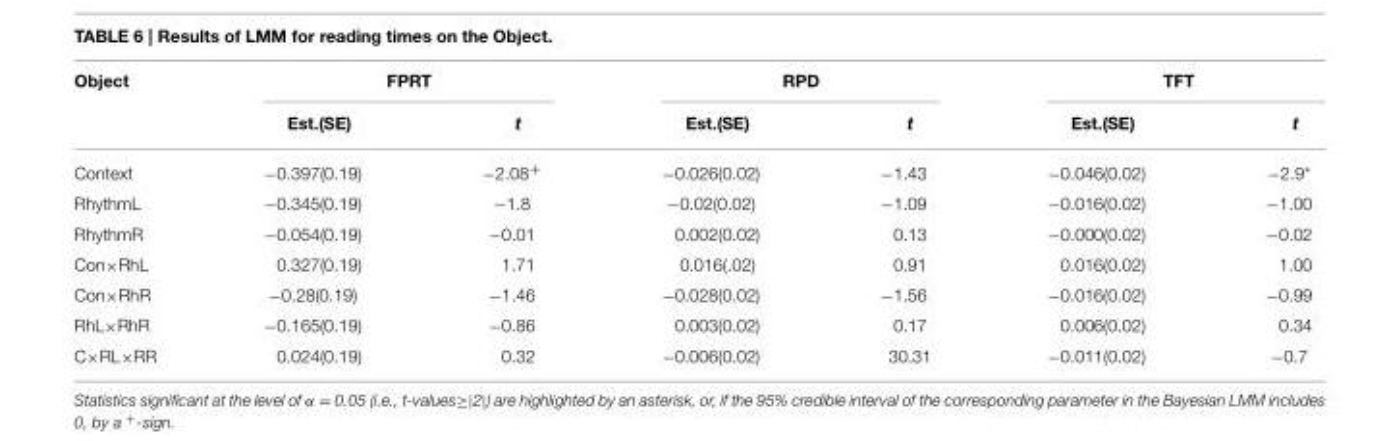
<table><thead><tr><td rowspan="2">Object</td><td colspan="2">FPRT</td><td colspan="2">RPD</td><td colspan="2">TFT</td></tr><tr><td>Est.(SE)</td><td>t</td><td>Est.(SE)</td><td>t</td><td>Est.(SE)</td><td>t</td></tr></thead><tbody><tr><td>Context</td><td>−0.397(0.19)</td><td>−2.08<sup>+</sup></td><td>−0.026(0.02)</td><td>−1.43</td><td>−0.046(0.02)</td><td>−2.9*</td></tr><tr><td>RhythmL</td><td>−0.345(0.19)</td><td>−1.8</td><td>−0.02(0.02)</td><td>−1.09</td><td>−0.016(0.02)</td><td>−1.00</td></tr><tr><td>RhythmR</td><td>−0.054(0.19)</td><td>−0.01</td><td>0.002(0.02)</td><td>0.13</td><td>−0.000(0.02)</td><td>−0.02</td></tr><tr><td>Con×RhL</td><td>0.327(0.19)</td><td>1.71</td><td>0.016(.02)</td><td>0.91</td><td>0.016(0.02)</td><td>1.00</td></tr><tr><td>Con×RhR</td><td>−0.28(0.19)</td><td>−1.46</td><td>−0.028(0.02)</td><td>−1.56</td><td>−0.016(0.02)</td><td>−0.99</td></tr><tr><td>RhL×RhR</td><td>−0.165(0.19)</td><td>−0.86</td><td>0.003(0.02)</td><td>0.17</td><td>0.006(0.02)</td><td>0.34</td></tr><tr><td>C×RL×RR</td><td>0.024(0.19)</td><td>0.32</td><td>−0.006(0.02)</td><td>30.31</td><td>−0.011(0.02)</td><td>−0.7</td></tr></tbody></table>